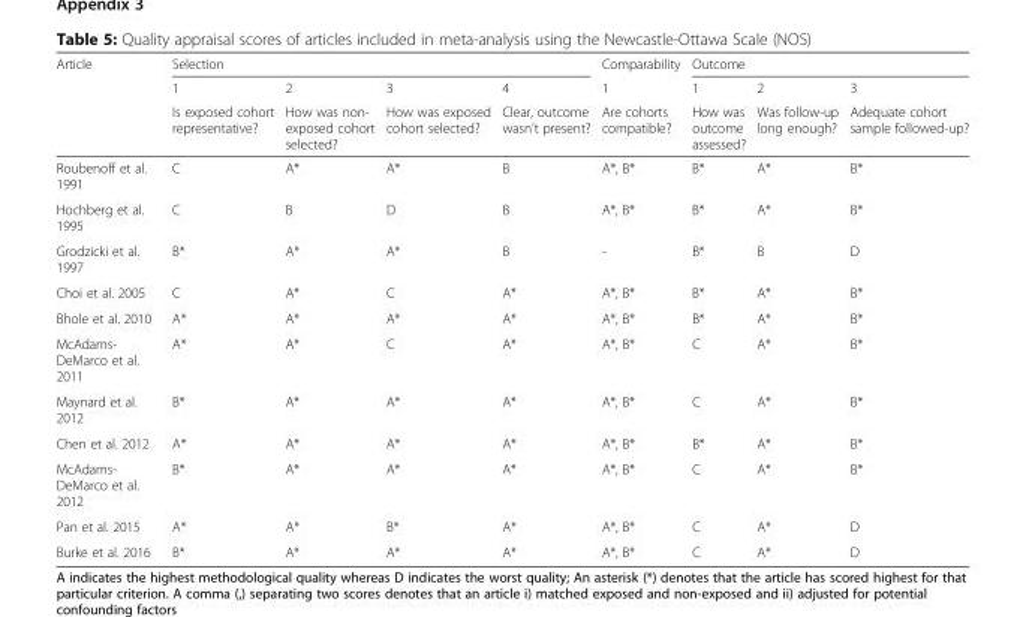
<table><thead><tr><td rowspan="3">Article</td><td colspan="4">Selection</td><td rowspan="3">Comparability 1 Are cohorts compatible?</td><td colspan="3">Outcome</td></tr><tr><td rowspan="2">1 Is exposed cohort representative?</td><td rowspan="2">2 How was non- exposed cohort selected?</td><td rowspan="2">3 How was exposed cohort selected?</td><td rowspan="2">4 Clear, outcome wasn’t present?</td><td rowspan="2">1 How was outcome assessed?</td><td rowspan="2">2 Was follow-up long enough?</td><td rowspan="2">3 Adequate cohort sample followed-up?</td></tr><tr></tr></thead><tbody><tr><td>Roubenoff et al. 1991</td><td>C</td><td>A*</td><td>A*</td><td>B</td><td>A*, B*</td><td>B*</td><td>A*</td><td>B*</td></tr><tr><td>Hochberg et al. 1995</td><td>C</td><td>B</td><td>D</td><td>B</td><td>A*, B*</td><td>B*</td><td>A*</td><td>B*</td></tr><tr><td>Grodzicki et al. 1997</td><td>B*</td><td>A*</td><td>A*</td><td>B</td><td>-</td><td>B*</td><td>B</td><td>D</td></tr><tr><td>Choi et al. 2005</td><td>C</td><td>A*</td><td>C</td><td>A*</td><td>A*, B*</td><td>B*</td><td>A*</td><td>B*</td></tr><tr><td>Bhole et al. 2010</td><td>A*</td><td>A*</td><td>A*</td><td>A*</td><td>A*, B*</td><td>B*</td><td>A*</td><td>B*</td></tr><tr><td>McAdams- DeMarco et al. 2011</td><td>A*</td><td>A*</td><td>C</td><td>A*</td><td>A*, B*</td><td>C</td><td>A*</td><td>B*</td></tr><tr><td>Maynard et al. 2012</td><td>B*</td><td>A*</td><td>A*</td><td>A*</td><td>A*, B*</td><td>C</td><td>A*</td><td>B*</td></tr><tr><td>Chen et al. 2012</td><td>A*</td><td>A*</td><td>A*</td><td>A*</td><td>A*, B*</td><td>B*</td><td>A*</td><td>B*</td></tr><tr><td>McAdams- DeMarco et al. 2012</td><td>B*</td><td>A*</td><td>A*</td><td>A*</td><td>A*, B*</td><td>C</td><td>A*</td><td>B*</td></tr><tr><td>Pan et al. 2015</td><td>A*</td><td>A*</td><td>B*</td><td>A*</td><td>A*, B*</td><td>C</td><td>A*</td><td>D</td></tr><tr><td>Burke et al. 2016</td><td>B*</td><td>A*</td><td>A*</td><td>A*</td><td>A*, B*</td><td>C</td><td>A*</td><td>D</td></tr></tbody></table>